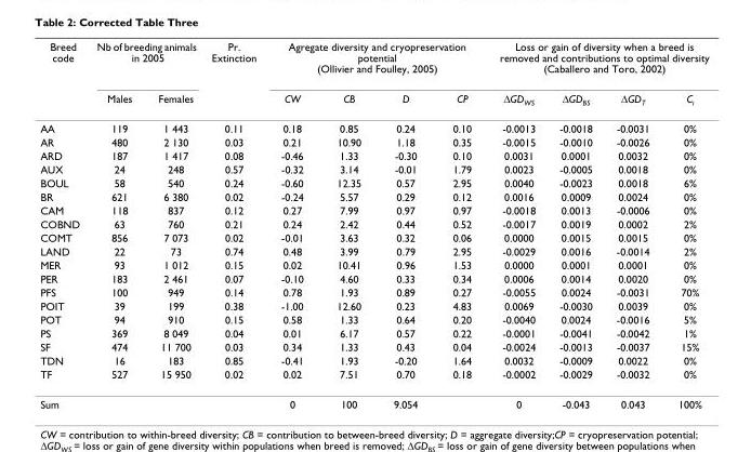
<table><thead><tr><td rowspan="2">Breed code</td><td colspan="2">Nb of breeding animals in 2005</td><td rowspan="2">Pr. Extinction</td><td colspan="4">Agregate diversity and cryopreservation potential (Ollivier and Foulley, 2005)</td><td colspan="4">Loss or gain of diversity when a breed is removed and contributions to optimal diversity (Caballero and Toro, 2002)</td></tr><tr><td>Males</td><td>Females</td><td>CW</td><td>CB</td><td>D</td><td>CP</td><td>ΔGD<sub>WS</sub></td><td>ΔGD<sub>BS</sub></td><td>ΔGD<sub>T</sub></td><td>C<sub>i</sub></td></tr></thead><tbody><tr><td>AA</td><td>119</td><td>1 443</td><td>0.11</td><td>0.18</td><td>0.85</td><td>0.24</td><td>0.10</td><td>-0.0013</td><td>-0.0018</td><td>-0.0031</td><td>0%</td></tr><tr><td>AR</td><td>480</td><td>2 130</td><td>0.03</td><td>0.21</td><td>10.90</td><td>1.18</td><td>0.35</td><td>-0.0015</td><td>-0.0010</td><td>-0.0026</td><td>0%</td></tr><tr><td>ARD</td><td>187</td><td>1 417</td><td>0.08</td><td>-0.46</td><td>1.33</td><td>-0.30</td><td>0.10</td><td>0.0031</td><td>0.0001</td><td>0.0032</td><td>0%</td></tr><tr><td>AUX</td><td>24</td><td>248</td><td>0.57</td><td>-0.32</td><td>3.14</td><td>-0.01</td><td>1.79</td><td>0.0023</td><td>-0.0005</td><td>0.0018</td><td>0%</td></tr><tr><td>BOUL</td><td>58</td><td>540</td><td>0.24</td><td>-0.60</td><td>12.35</td><td>0.57</td><td>2.95</td><td>0.0040</td><td>-0.0023</td><td>0.0018</td><td>6%</td></tr><tr><td>BR</td><td>621</td><td>6 380</td><td>0.02</td><td>-0.24</td><td>5.57</td><td>0.29</td><td>0.12</td><td>0.0016</td><td>0.0009</td><td>0.0024</td><td>0%</td></tr><tr><td>CAM</td><td>118</td><td>837</td><td>0.12</td><td>0.27</td><td>7.99</td><td>0.97</td><td>0.97</td><td>-0.0018</td><td>0.0013</td><td>-0.0006</td><td>0%</td></tr><tr><td>COBND</td><td>63</td><td>760</td><td>0.21</td><td>0.24</td><td>2.42</td><td>0.44</td><td>0.52</td><td>-0.0017</td><td>0.0019</td><td>0.0002</td><td>2%</td></tr><tr><td>COMT</td><td>856</td><td>7 073</td><td>0.02</td><td>-0.01</td><td>3.63</td><td>0.32</td><td>0.06</td><td>0.0000</td><td>0.0015</td><td>0.0015</td><td>0%</td></tr><tr><td>LAND</td><td>22</td><td>73</td><td>0.74</td><td>0.48</td><td>3.99</td><td>0.79</td><td>2.95</td><td>-0.0029</td><td>0.0016</td><td>-0.0014</td><td>2%</td></tr><tr><td>MER</td><td>93</td><td>1 012</td><td>0.15</td><td>0.02</td><td>10.41</td><td>0.96</td><td>1.53</td><td>0.0000</td><td>0.0001</td><td>0.0001</td><td>0%</td></tr><tr><td>PER</td><td>183</td><td>2 461</td><td>0.07</td><td>-0.10</td><td>4.60</td><td>0.33</td><td>0.34</td><td>0.0006</td><td>0.0014</td><td>0.0020</td><td>0%</td></tr><tr><td>PFS</td><td>100</td><td>949</td><td>0.14</td><td>0.78</td><td>1.93</td><td>0.89</td><td>0.27</td><td>-0.0055</td><td>0.0024</td><td>-0.0031</td><td>70%</td></tr><tr><td>POIT</td><td>39</td><td>199</td><td>0.38</td><td>-1.00</td><td>12.60</td><td>0.23</td><td>4.83</td><td>0.0069</td><td>-0.0030</td><td>0.0039</td><td>0%</td></tr><tr><td>POT</td><td>94</td><td>910</td><td>0.15</td><td>0.58</td><td>1.33</td><td>0.64</td><td>0.20</td><td>-0.0040</td><td>0.0024</td><td>-0.0016</td><td>5%</td></tr><tr><td>PS</td><td>369</td><td>8 049</td><td>0.04</td><td>0.01</td><td>6.17</td><td>0.57</td><td>0.22</td><td>-0.0001</td><td>-0.0041</td><td>-0.0042</td><td>1%</td></tr><tr><td>SF</td><td>474</td><td>11 700</td><td>0.03</td><td>0.34</td><td>1.33</td><td>0.43</td><td>0.04</td><td>-0.0024</td><td>-0.0013</td><td>-0.0037</td><td>15%</td></tr><tr><td>TDN</td><td>16</td><td>183</td><td>0.85</td><td>-0.41</td><td>1.93</td><td>-0.20</td><td>1.64</td><td>0.0032</td><td>-0.0009</td><td>0.0022</td><td>0%</td></tr><tr><td>TF</td><td>527</td><td>15 950</td><td>0.02</td><td>0.02</td><td>7.51</td><td>0.70</td><td>0.18</td><td>-0.0002</td><td>-0.0029</td><td>-0.0032</td><td>0%</td></tr><tr><td>Sum</td><td></td><td></td><td></td><td>0</td><td>100</td><td>9.054</td><td></td><td>0</td><td>-0.043</td><td>0.043</td><td>100%</td></tr></tbody></table>